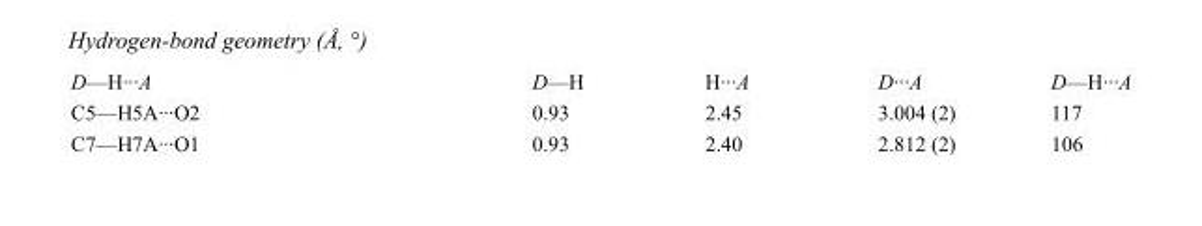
<table><tbody><tr><td>D—H···A</td><td>D—H</td><td>H···A</td><td>D···A</td><td>D—H···A</td></tr><tr><td>C5—H5A···O2</td><td>0.93</td><td>2.45</td><td>3.004 (2)</td><td>117</td></tr><tr><td>C7—H7A···O1</td><td>0.93</td><td>2.40</td><td>2.812 (2)</td><td>106</td></tr></tbody></table>